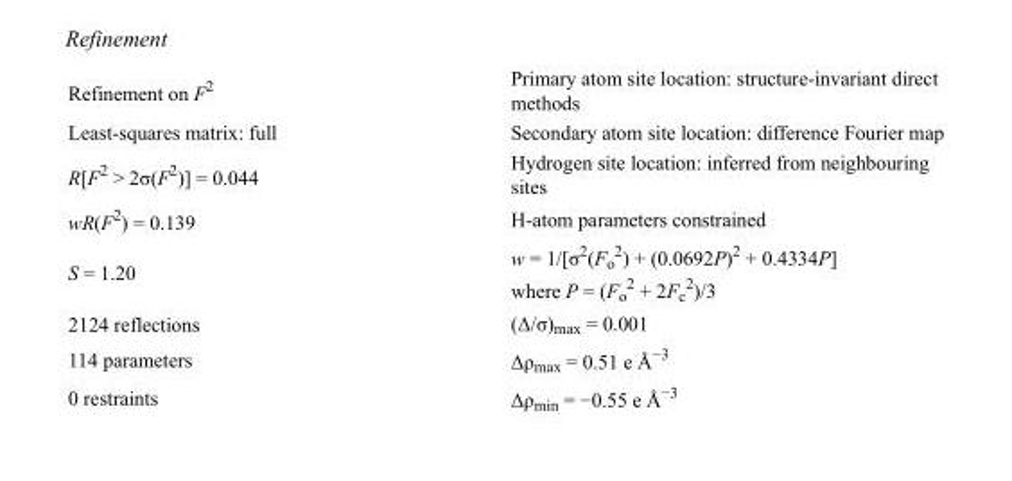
<table><tbody><tr><td>Refinement on F<sup>2</sup></td><td>Primary atom site location: structure-invariant direct methods</td></tr><tr><td>Least-squares matrix: full</td><td>Secondary atom site location: difference Fourier map</td></tr><tr><td>R[F<sup>2</sup> &gt; 2σ(F<sup>2</sup>)] = 0.044</td><td>Hydrogen site location: inferred from neighbouring sites</td></tr><tr><td>wR(F<sup>2</sup>) = 0.139</td><td>H-atom parameters constrained</td></tr><tr><td>S = 1.20</td><td>w = 1/[σ<sup>2</sup>(F<sub>o</sub> <sup>2</sup>) + (0.0692P)<sup>2</sup> + 0.4334P] where P = (F<sub>o</sub> <sup>2</sup> + 2F<sub>c</sub> <sup>2</sup>)/3</td></tr><tr><td>2124 reflections</td><td>(Δ/σ)<sub>max</sub> = 0.001</td></tr><tr><td>114 parameters</td><td>Δρ<sub>max</sub> = 0.51 e Å<sup>−3</sup></td></tr><tr><td>0 restraints</td><td>Δρ<sub>min</sub> = −0.55 e Å<sup>−3</sup></td></tr></tbody></table>